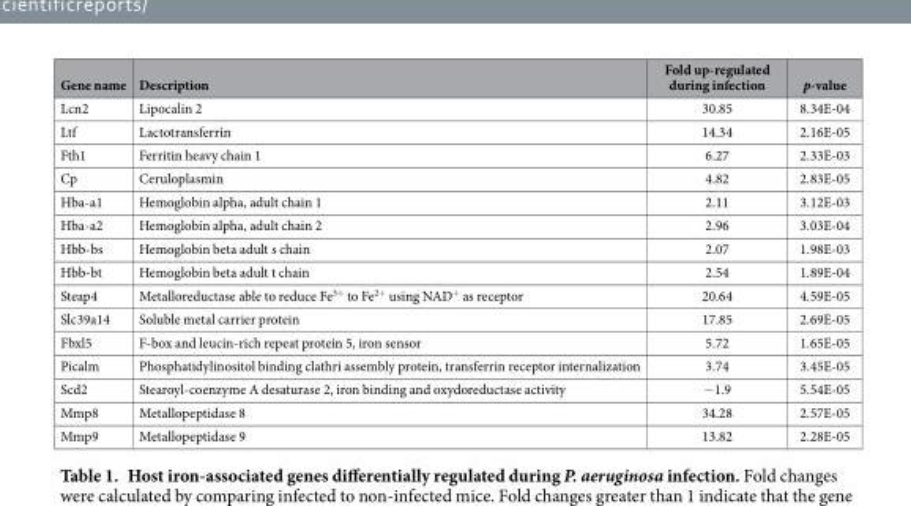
<table><thead><tr><td>Gene name</td><td>Description</td><td>Fold up-regulated during infection</td><td>p-value</td></tr></thead><tbody><tr><td>Lcn2</td><td>Lipocalin 2</td><td>30.85</td><td>8.34E-04</td></tr><tr><td>Ltf</td><td>Lactotransferrin</td><td>14.34</td><td>2.16E-05</td></tr><tr><td>Fth1</td><td>Ferritin heavy chain 1</td><td>6.27</td><td>2.33E-03</td></tr><tr><td>Cp</td><td>Ceruloplasmin</td><td>4.82</td><td>2.83E-05</td></tr><tr><td>Hba-a1</td><td>Hemoglobin alpha, adult chain 1</td><td>2.11</td><td>3.12E-03</td></tr><tr><td>Hba-a2</td><td>Hemoglobin alpha, adult chain 2</td><td>2.96</td><td>3.03E-04</td></tr><tr><td>Hbb-bs</td><td>Hemoglobin beta adult s chain</td><td>2.07</td><td>1.98E-03</td></tr><tr><td>Hbb-bt</td><td>Hemoglobin beta adult t chain</td><td>2.54</td><td>1.89E-04</td></tr><tr><td>Steap4</td><td>Metalloreductase able to reduce Fe<sup>3+</sup> to Fe<sup>2+</sup> using NAD<sup>+</sup> as receptor</td><td>20.64</td><td>4.59E-05</td></tr><tr><td>Slc39a14</td><td>Soluble metal carrier protein</td><td>17.85</td><td>2.69E-05</td></tr><tr><td>Fbxl5</td><td>F-box and leucin-rich repeat protein 5, iron sensor</td><td>5.72</td><td>1.65E-05</td></tr><tr><td>Picalm</td><td>Phosphatidylinositol binding clathri assembly protein, transferrin receptor internalization</td><td>3.74</td><td>3.45E-05</td></tr><tr><td>Scd2</td><td>Stearoyl-coenzyme A desaturase 2, iron binding and oxydoreductase activity</td><td>− 1.9</td><td>5.54E-05</td></tr><tr><td>Mmp8</td><td>Metallopeptidase 8</td><td>34.28</td><td>2.57E-05</td></tr><tr><td>Mmp9</td><td>Metallopeptidase 9</td><td>13.82</td><td>2.28E-05</td></tr></tbody></table>